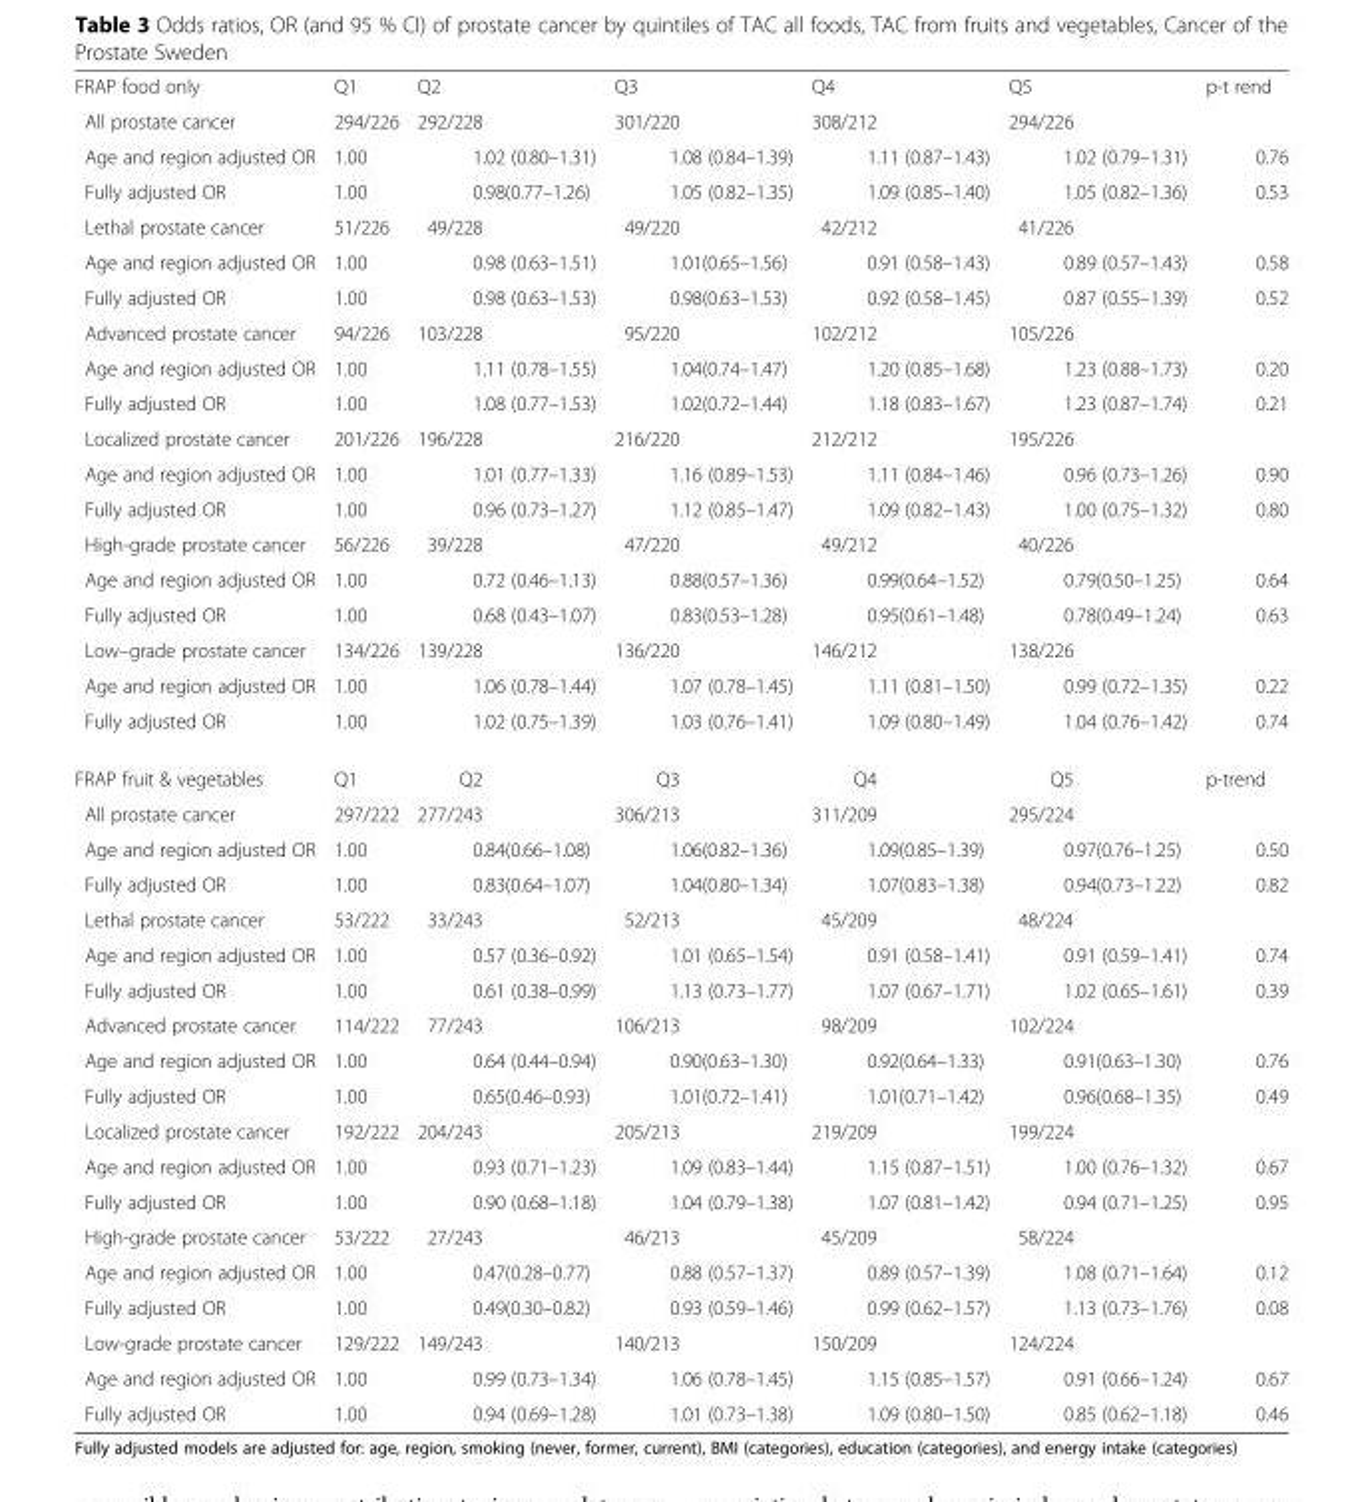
<table><tbody><tr><td>FRAP food only</td><td>Q1</td><td>Q2</td><td>Q3</td><td>Q4</td><td>Q5</td><td>p-t rend</td></tr><tr><td>All prostate cancer</td><td>294/226</td><td>292/228</td><td>301/220</td><td>308/212</td><td>294/226</td><td></td></tr><tr><td>Age and region adjusted OR</td><td>1.00</td><td>1.02 (0.80–1.31)</td><td>1.08 (0.84–1.39)</td><td>1.11 (0.87–1.43)</td><td>1.02 (0.79–1.31)</td><td>0.76</td></tr><tr><td>Fully adjusted OR</td><td>1.00</td><td>0.98(0.77–1.26)</td><td>1.05 (0.82–1.35)</td><td>1.09 (0.85–1.40)</td><td>1.05 (0.82–1.36)</td><td>0.53</td></tr><tr><td>Lethal prostate cancer</td><td>51/226</td><td>49/228</td><td>49/220</td><td>42/212</td><td>41/226</td><td></td></tr><tr><td>Age and region adjusted OR</td><td>1.00</td><td>0.98 (0.63–1.51)</td><td>1.01(0.65–1.56)</td><td>0.91 (0.58–1.43)</td><td>0.89 (0.57–1.43)</td><td>0.58</td></tr><tr><td>Fully adjusted OR</td><td>1.00</td><td>0.98 (0.63–1.53)</td><td>0.98(0.63–1.53)</td><td>0.92 (0.58–1.45)</td><td>0.87 (0.55–1.39)</td><td>0.52</td></tr><tr><td>Advanced prostate cancer</td><td>94/226</td><td>103/228</td><td>95/220</td><td>102/212</td><td>105/226</td><td></td></tr><tr><td>Age and region adjusted OR</td><td>1.00</td><td>1.11 (0.78–1.55)</td><td>1.04(0.74–1.47)</td><td>1.20 (0.85–1.68)</td><td>1.23 (0.88–1.73)</td><td>0.20</td></tr><tr><td>Fully adjusted OR</td><td>1.00</td><td>1.08 (0.77–1.53)</td><td>1.02(0.72–1.44)</td><td>1.18 (0.83–1.67)</td><td>1.23 (0.87–1.74)</td><td>0.21</td></tr><tr><td>Localized prostate cancer</td><td>201/226</td><td>196/228</td><td>216/220</td><td>212/212</td><td>195/226</td><td></td></tr><tr><td>Age and region adjusted OR</td><td>1.00</td><td>1.01 (0.77–1.33)</td><td>1.16 (0.89–1.53)</td><td>1.11 (0.84–1.46)</td><td>0.96 (0.73–1.26)</td><td>0.90</td></tr><tr><td>Fully adjusted OR</td><td>1.00</td><td>0.96 (0.73–1.27)</td><td>1.12 (0.85–1.47)</td><td>1.09 (0.82–1.43)</td><td>1.00 (0.75–1.32)</td><td>0.80</td></tr><tr><td>High-grade prostate cancer</td><td>56/226</td><td>39/228</td><td>47/220</td><td>49/212</td><td>40/226</td><td></td></tr><tr><td>Age and region adjusted OR</td><td>1.00</td><td>0.72 (0.46–1.13)</td><td>0.88(0.57–1.36)</td><td>0.99(0.64–1.52)</td><td>0.79(0.50–1.25)</td><td>0.64</td></tr><tr><td>Fully adjusted OR</td><td>1.00</td><td>0.68 (0.43–1.07)</td><td>0.83(0.53–1.28)</td><td>0.95(0.61–1.48)</td><td>0.78(0.49–1.24)</td><td>0.63</td></tr><tr><td>Low–grade prostate cancer</td><td>134/226</td><td>139/228</td><td>136/220</td><td>146/212</td><td>138/226</td><td></td></tr><tr><td>Age and region adjusted OR</td><td>1.00</td><td>1.06 (0.78–1.44)</td><td>1.07 (0.78–1.45)</td><td>1.11 (0.81–1.50)</td><td>0.99 (0.72–1.35)</td><td>0.22</td></tr><tr><td>Fully adjusted OR</td><td>1.00</td><td>1.02 (0.75–1.39)</td><td>1.03 (0.76–1.41)</td><td>1.09 (0.80–1.49)</td><td>1.04 (0.76–1.42)</td><td>0.74</td></tr><tr><td>FRAP fruit &amp; vegetables</td><td>Q1</td><td>Q2</td><td>Q3</td><td>Q4</td><td>Q5</td><td>p-trend</td></tr><tr><td>All prostate cancer</td><td>297/222</td><td>277/243</td><td>306/213</td><td>311/209</td><td>295/224</td><td></td></tr><tr><td>Age and region adjusted OR</td><td>1.00</td><td>0.84(0.66–1.08)</td><td>1.06(0.82–1.36)</td><td>1.09(0.85–1.39)</td><td>0.97(0.76–1.25)</td><td>0.50</td></tr><tr><td>Fully adjusted OR</td><td>1.00</td><td>0.83(0.64–1.07)</td><td>1.04(0.80–1.34)</td><td>1.07(0.83–1.38)</td><td>0.94(0.73–1.22)</td><td>0.82</td></tr><tr><td>Lethal prostate cancer</td><td>53/222</td><td>33/243</td><td>52/213</td><td>45/209</td><td>48/224</td><td></td></tr><tr><td>Age and region adjusted OR</td><td>1.00</td><td>0.57 (0.36–0.92)</td><td>1.01 (0.65–1.54)</td><td>0.91 (0.58–1.41)</td><td>0.91 (0.59–1.41)</td><td>0.74</td></tr><tr><td>Fully adjusted OR</td><td>1.00</td><td>0.61 (0.38–0.99)</td><td>1.13 (0.73–1.77)</td><td>1.07 (0.67–1.71)</td><td>1.02 (0.65–1.61)</td><td>0.39</td></tr><tr><td>Advanced prostate cancer</td><td>114/222</td><td>77/243</td><td>106/213</td><td>98/209</td><td>102/224</td><td></td></tr><tr><td>Age and region adjusted OR</td><td>1.00</td><td>0.64 (0.44–0.94)</td><td>0.90(0.63–1.30)</td><td>0.92(0.64–1.33)</td><td>0.91(0.63–1.30)</td><td>0.76</td></tr><tr><td>Fully adjusted OR</td><td>1.00</td><td>0.65(0.46–0.93)</td><td>1.01(0.72–1.41)</td><td>1.01(0.71–1.42)</td><td>0.96(0.68–1.35)</td><td>0.49</td></tr><tr><td>Localized prostate cancer</td><td>192/222</td><td>204/243</td><td>205/213</td><td>219/209</td><td>199/224</td><td></td></tr><tr><td>Age and region adjusted OR</td><td>1.00</td><td>0.93 (0.71–1.23)</td><td>1.09 (0.83–1.44)</td><td>1.15 (0.87–1.51)</td><td>1.00 (0.76–1.32)</td><td>0.67</td></tr><tr><td>Fully adjusted OR</td><td>1.00</td><td>0.90 (0.68–1.18)</td><td>1.04 (0.79–1.38)</td><td>1.07 (0.81–1.42)</td><td>0.94 (0.71–1.25)</td><td>0.95</td></tr><tr><td>High-grade prostate cancer</td><td>53/222</td><td>27/243</td><td>46/213</td><td>45/209</td><td>58/224</td><td></td></tr><tr><td>Age and region adjusted OR</td><td>1.00</td><td>0.47(0.28–0.77)</td><td>0.88 (0.57–1.37)</td><td>0.89 (0.57–1.39)</td><td>1.08 (0.71–1.64)</td><td>0.12</td></tr><tr><td>Fully adjusted OR</td><td>1.00</td><td>0.49(0.30–0.82)</td><td>0.93 (0.59–1.46)</td><td>0.99 (0.62–1.57)</td><td>1.13 (0.73–1.76)</td><td>0.08</td></tr><tr><td>Low-grade prostate cancer</td><td>129/222</td><td>149/243</td><td>140/213</td><td>150/209</td><td>124/224</td><td></td></tr><tr><td>Age and region adjusted OR</td><td>1.00</td><td>0.99 (0.73–1.34)</td><td>1.06 (0.78–1.45)</td><td>1.15 (0.85–1.57)</td><td>0.91 (0.66–1.24)</td><td>0.67</td></tr><tr><td>Fully adjusted OR</td><td>1.00</td><td>0.94 (0.69–1.28)</td><td>1.01 (0.73–1.38)</td><td>1.09 (0.80–1.50)</td><td>0.85 (0.62–1.18)</td><td>0.46</td></tr></tbody></table>